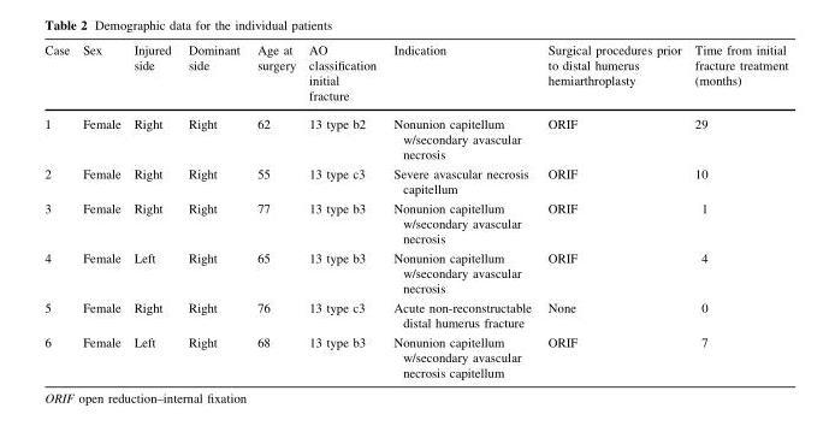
<table><thead><tr><td>Case</td><td>Sex</td><td>Injured side</td><td>Dominant side</td><td>Age at surgery</td><td>AO classification initial fracture</td><td>Indication</td><td>Surgical procedures prior to distal humerus hemiarthroplasty</td><td>Time from initial fracture treatment (months)</td></tr></thead><tbody><tr><td>1</td><td>Female</td><td>Right</td><td>Right</td><td>62</td><td>13 type b2</td><td>Nonunion capitellum w/secondary avascular necrosis</td><td>ORIF</td><td>29</td></tr><tr><td>2</td><td>Female</td><td>Right</td><td>Right</td><td>55</td><td>13 type c3</td><td>Severe avascular necrosis capitellum</td><td>ORIF</td><td>10</td></tr><tr><td>3</td><td>Female</td><td>Right</td><td>Right</td><td>77</td><td>13 type b3</td><td>Nonunion capitellum w/secondary avascular necrosis</td><td>ORIF</td><td>1</td></tr><tr><td>4</td><td>Female</td><td>Left</td><td>Right</td><td>65</td><td>13 type b3</td><td>Nonunion capitellum w/secondary avascular necrosis</td><td>ORIF</td><td>4</td></tr><tr><td>5</td><td>Female</td><td>Right</td><td>Right</td><td>76</td><td>13 type c3</td><td>Acute non-reconstructable distal humerus fracture</td><td>None</td><td>0</td></tr><tr><td>6</td><td>Female</td><td>Left</td><td>Right</td><td>68</td><td>13 type b3</td><td>Nonunion capitellum w/secondary avascular necrosis capitellum</td><td>ORIF</td><td>7</td></tr></tbody></table>